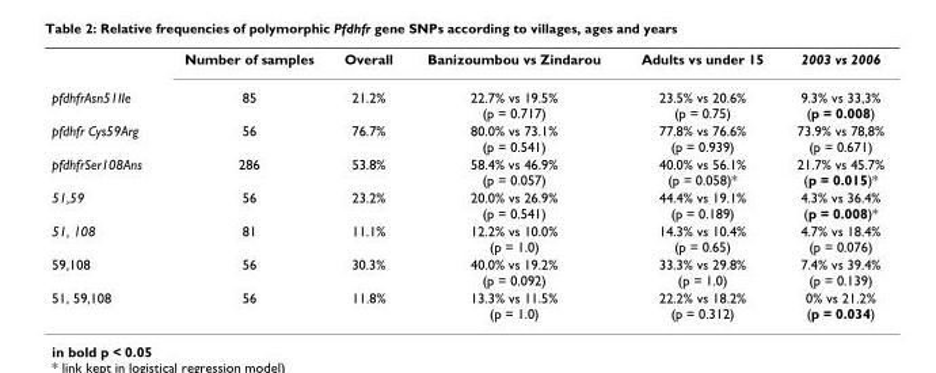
<table><thead><tr><td></td><td>Number of samples</td><td>Overall</td><td>Banizoumbou vs Zindarou</td><td>Adults vs under 15</td><td>2003 vs 2006</td></tr></thead><tbody><tr><td>pfdhfrAsn51IIe</td><td>85</td><td>21.2%</td><td>22.7% vs 19.5% (p = 0.717)</td><td>23.5% vs 20.6% (p = 0.75)</td><td>9.3% vs 33,3% (p = 0.008)</td></tr><tr><td>pfdhfr Cys59Arg</td><td>56</td><td>76.7%</td><td>80.0% vs 73.1% (p = 0.541)</td><td>77.8% vs 76.6% (p = 0.939)</td><td>73.9% vs 78,8% (p = 0.671)</td></tr><tr><td>pfdhfrSer108Ans</td><td>286</td><td>53.8%</td><td>58.4% vs 46.9% (p = 0.057)</td><td>40.0% vs 56.1% (p = 0.058)*</td><td>21.7% vs 45.7% (p = 0.015)*</td></tr><tr><td>51,59</td><td>56</td><td>23.2%</td><td>20.0% vs 26.9% (p = 0.541)</td><td>44.4% vs 19.1% (p = 0.189)</td><td>4.3% vs 36.4% (p = 0.008)*</td></tr><tr><td>51, 108</td><td>81</td><td>11.1%</td><td>12.2% vs 10.0% (p = 1.0)</td><td>14.3% vs 10.4% (p = 0.65)</td><td>4.7% vs 18.4% (p = 0.076)</td></tr><tr><td>59,108</td><td>56</td><td>30.3%</td><td>40.0% vs 19.2% (p = 0.092)</td><td>33.3% vs 29.8% (p = 1.0)</td><td>7.4% vs 39.4% (p = 0.139)</td></tr><tr><td>51, 59,108</td><td>56</td><td>11.8%</td><td>13.3% vs 11.5% (p = 1.0)</td><td>22.2% vs 18.2% (p = 0.312)</td><td>0% vs 21.2% (p = 0.034)</td></tr></tbody></table>